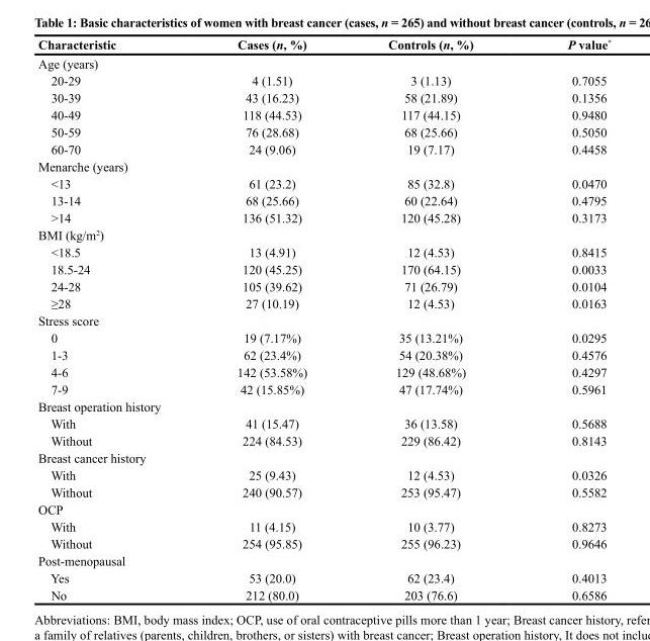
<table><thead><tr><td>Characteristic</td><td>Cases (n, %)</td><td>Controls (n, %)</td><td>P value*</td></tr></thead><tbody><tr><td colspan="4">Age (years)</td></tr><tr><td>20-29</td><td>4 (1.51)</td><td>3 (1.13)</td><td>0.7055</td></tr><tr><td>30-39</td><td>43 (16.23)</td><td>58 (21.89)</td><td>0.1356</td></tr><tr><td>40-49</td><td>118 (44.53)</td><td>117 (44.15)</td><td>0.9480</td></tr><tr><td>50-59</td><td>76 (28.68)</td><td>68 (25.66)</td><td>0.5050</td></tr><tr><td>60-70</td><td>24 (9.06)</td><td>19 (7.17)</td><td>0.4458</td></tr><tr><td colspan="4">Menarche (years)</td></tr><tr><td>&lt;13</td><td>61 (23.2)</td><td>85 (32.8)</td><td>0.0470</td></tr><tr><td>13-14</td><td>68 (25.66)</td><td>60 (22.64)</td><td>0.4795</td></tr><tr><td>&gt;14</td><td>136 (51.32)</td><td>120 (45.28)</td><td>0.3173</td></tr><tr><td colspan="4">BMI (kg/m<sup>2</sup>)</td></tr><tr><td>&lt;18.5</td><td>13 (4.91)</td><td>12 (4.53)</td><td>0.8415</td></tr><tr><td>18.5-24</td><td>120 (45.25)</td><td>170 (64.15)</td><td>0.0033</td></tr><tr><td>24-28</td><td>105 (39.62)</td><td>71 (26.79)</td><td>0.0104</td></tr><tr><td>≥28</td><td>27 (10.19)</td><td>12 (4.53)</td><td>0.0163</td></tr><tr><td colspan="4">Stress score</td></tr><tr><td>0</td><td>19 (7.17%)</td><td>35 (13.21%)</td><td>0.0295</td></tr><tr><td>1-3</td><td>62 (23.4%)</td><td>54 (20.38%)</td><td>0.4576</td></tr><tr><td>4-6</td><td>142 (53.58%)</td><td>129 (48.68%)</td><td>0.4297</td></tr><tr><td>7-9</td><td>42 (15.85%)</td><td>47 (17.74%)</td><td>0.5961</td></tr><tr><td colspan="4">Breast operation history</td></tr><tr><td>With</td><td>41 (15.47)</td><td>36 (13.58)</td><td>0.5688</td></tr><tr><td>Without</td><td>224 (84.53)</td><td>229 (86.42)</td><td>0.8143</td></tr><tr><td colspan="4">Breast cancer history</td></tr><tr><td>With</td><td>25 (9.43)</td><td>12 (4.53)</td><td>0.0326</td></tr><tr><td>Without</td><td>240 (90.57)</td><td>253 (95.47)</td><td>0.5582</td></tr><tr><td colspan="4">OCP</td></tr><tr><td>With</td><td>11 (4.15)</td><td>10 (3.77)</td><td>0.8273</td></tr><tr><td>Without</td><td>254 (95.85)</td><td>255 (96.23)</td><td>0.9646</td></tr><tr><td colspan="4">Post-menopausal</td></tr><tr><td>Yes</td><td>53 (20.0)</td><td>62 (23.4)</td><td>0.4013</td></tr><tr><td>No</td><td>212 (80.0)</td><td>203 (76.6)</td><td>0.6586</td></tr></tbody></table>